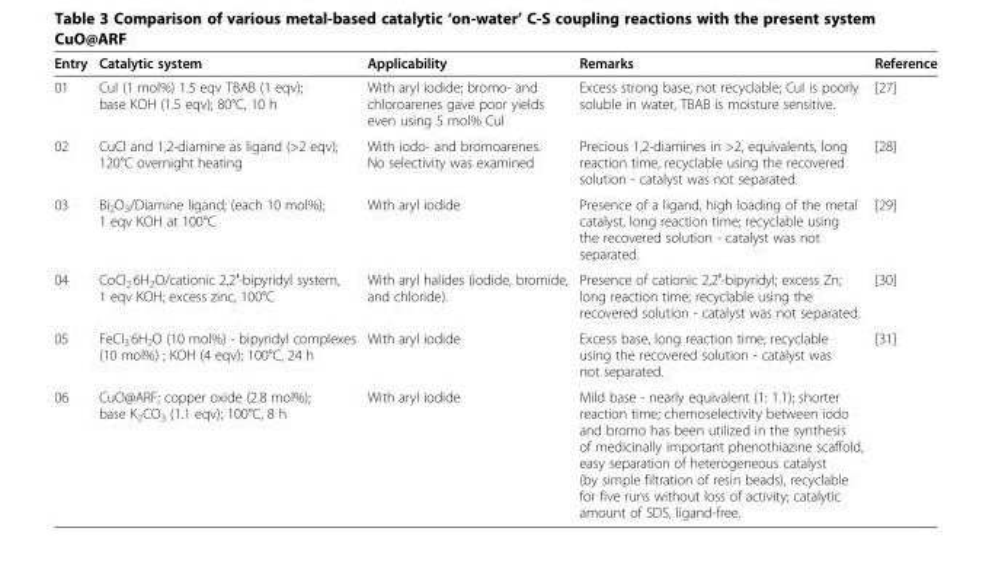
<table><thead><tr><td>Entry</td><td>Catalytic system</td><td>Applicability</td><td>Remarks</td><td>Reference</td></tr></thead><tbody><tr><td>01</td><td>CuI (1 mol%) 1.5 eqv TBAB (1 eqv); base KOH (1.5 eqv); 80°C, 10 h</td><td>With aryl iodide; bromo- and chloroarenes gave poor yields even using 5 mol% CuI</td><td>Excess strong base, not recyclable; CuI is poorly soluble in water, TBAB is moisture sensitive.</td><td>[27]</td></tr><tr><td>02</td><td>CuCl and 1,2-diamine as ligand (&gt;2 eqv); 120°C overnight heating</td><td>With iodo- and bromoarenes. No selectivity was examined</td><td>Precious 1,2-diamines in &gt;2, equivalents, long reaction time, recyclable using the recovered solution - catalyst was not separated.</td><td>[28]</td></tr><tr><td>03</td><td>Bi<sub>2</sub>O<sub>3</sub>/Diamine ligand; (each 10 mol%); 1 eqv KOH at 100°C</td><td>With aryl iodide</td><td>Presence of a ligand, high loading of the metal catalyst, long reaction time; recyclable using the recovered solution - catalyst was not separated.</td><td>[29]</td></tr><tr><td>04</td><td>CoCl<sub>2</sub> <sup>.</sup>6H<sub>2</sub>O/cationic 2,2′-bipyridyl system, 1 eqv KOH; excess zinc, 100°C</td><td>With aryl halides (iodide, bromide, and chloride).</td><td>Presence of cationic 2,2′-bipyridyl; excess Zn; long reaction time; recyclable using the recovered solution - catalyst was not separated.</td><td>[30]</td></tr><tr><td>05</td><td>FeCl<sub>3</sub> <sup>.</sup>6H<sub>2</sub>O (10 mol%) - bipyridyl complexes (10 mol%) ; KOH (4 eqv); 100°C, 24 h</td><td>With aryl iodide</td><td>Excess base, long reaction time; recyclable using the recovered solution - catalyst was not separated.</td><td>[31]</td></tr><tr><td>06</td><td>CuO@ARF; copper oxide (2.8 mol%); base K<sub>2</sub>CO<sub>3</sub> (1.1 eqv); 100°C, 8 h</td><td>With aryl iodide</td><td>Mild base - nearly equivalent (1: 1.1); shorter reaction time; chemoselectivity between iodo and bromo has been utilized in the synthesis of medicinally important phenothiazine scaffold, easy separation of heterogeneous catalyst (by simple filtration of resin beads), recyclable for five runs without loss of activity; catalytic amount of SDS, ligand-free.</td><td></td></tr></tbody></table>